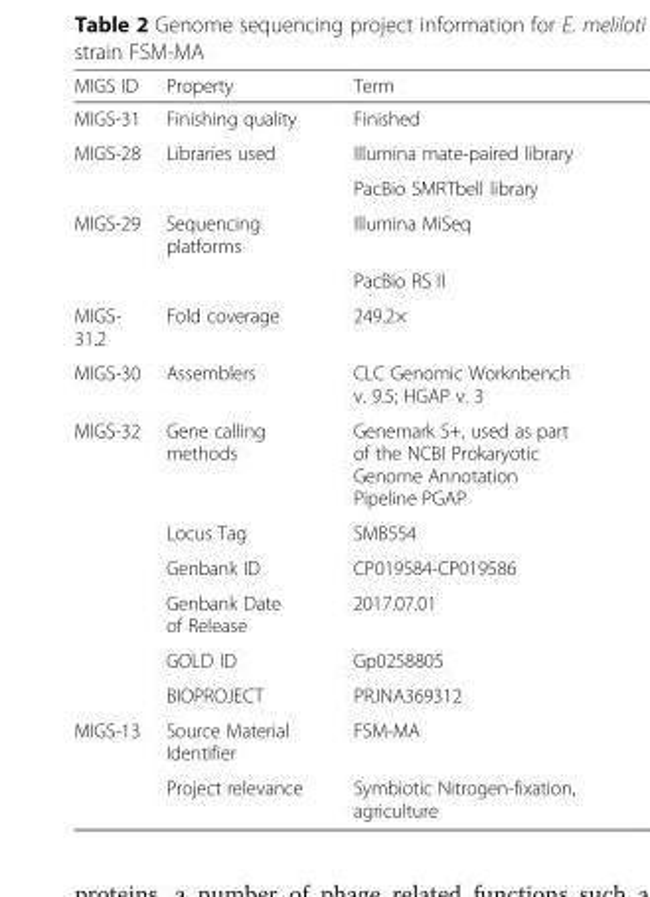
<table><thead><tr><td>MIGS ID</td><td>Property</td><td>Term</td></tr></thead><tbody><tr><td>MIGS-31</td><td>Finishing quality</td><td>Finished</td></tr><tr><td rowspan="2">MIGS-28</td><td>Libraries used</td><td>Illumina mate-paired library</td></tr><tr><td></td><td>PacBio SMRTbell library</td></tr><tr><td rowspan="2">MIGS-29</td><td>Sequencing platforms</td><td>Illumina MiSeq</td></tr><tr><td></td><td>PacBio RS II</td></tr><tr><td>MIGS- 31.2</td><td>Fold coverage</td><td>249.2×</td></tr><tr><td>MIGS-30</td><td>Assemblers</td><td>CLC Genomic Worknbench v. 9.5; HGAP v. 3</td></tr><tr><td rowspan="6">MIGS-32</td><td>Gene calling methods</td><td>Genemark S+, used as part of the NCBI Prokaryotic Genome Annotation Pipeline PGAP</td></tr><tr><td>Locus Tag</td><td>SMB554</td></tr><tr><td>Genbank ID</td><td>CP019584-CP019586</td></tr><tr><td>Genbank Date of Release</td><td>2017.07.01</td></tr><tr><td>GOLD ID</td><td>Gp0258805</td></tr><tr><td>BIOPROJECT</td><td>PRJNA369312</td></tr><tr><td rowspan="2">MIGS-13</td><td>Source Material Identifier</td><td>FSM-MA</td></tr><tr><td>Project relevance</td><td>Symbiotic Nitrogen-fixation, agriculture</td></tr></tbody></table>